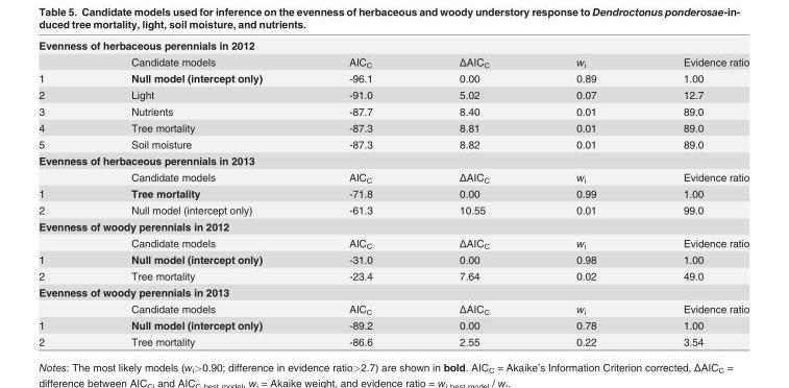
<table><tbody><tr><td colspan="6">Evenness of herbaceous perennials in 2012</td></tr><tr><td></td><td>Candidate models</td><td>AIC<sub>C</sub></td><td>ΔAIC<sub>C</sub></td><td>w<sub>i</sub></td><td>Evidence ratio</td></tr><tr><td>1</td><td>Null model (intercept only)</td><td>-96.1</td><td>0.00</td><td>0.89</td><td>1.00</td></tr><tr><td>2</td><td>Light</td><td>-91.0</td><td>5.02</td><td>0.07</td><td>12.7</td></tr><tr><td>3</td><td>Nutrients</td><td>-87.7</td><td>8.40</td><td>0.01</td><td>89.0</td></tr><tr><td>4</td><td>Tree mortality</td><td>-87.3</td><td>8.81</td><td>0.01</td><td>89.0</td></tr><tr><td>5</td><td>Soil moisture</td><td>-87.3</td><td>8.82</td><td>0.01</td><td>89.0</td></tr><tr><td colspan="6">Evenness of herbaceous perennials in 2013</td></tr><tr><td></td><td>Candidate models</td><td>AIC<sub>C</sub></td><td>ΔAIC<sub>C</sub></td><td>w<sub>i</sub></td><td>Evidence ratio</td></tr><tr><td>1</td><td>Tree mortality</td><td>-71.8</td><td>0.00</td><td>0.99</td><td>1.00</td></tr><tr><td>2</td><td>Null model (intercept only)</td><td>-61.3</td><td>10.55</td><td>0.01</td><td>99.0</td></tr><tr><td colspan="6">Evenness of woody perennials in 2012</td></tr><tr><td></td><td>Candidate models</td><td>AIC<sub>C</sub></td><td>ΔAIC<sub>C</sub></td><td>w<sub>i</sub></td><td>Evidence ratio</td></tr><tr><td>1</td><td>Null model (intercept only)</td><td>-31.0</td><td>0.00</td><td>0.98</td><td>1.00</td></tr><tr><td>2</td><td>Tree mortality</td><td>-23.4</td><td>7.64</td><td>0.02</td><td>49.0</td></tr><tr><td colspan="6">Evenness of woody perennials in 2013</td></tr><tr><td></td><td>Candidate models</td><td>AIC<sub>C</sub></td><td>ΔAIC<sub>C</sub></td><td>w<sub>i</sub></td><td>Evidence ratio</td></tr><tr><td>1</td><td>Null model (intercept only)</td><td>-89.2</td><td>0.00</td><td>0.78</td><td>1.00</td></tr><tr><td>2</td><td>Tree mortality</td><td>-86.6</td><td>2.55</td><td>0.22</td><td>3.54</td></tr></tbody></table>